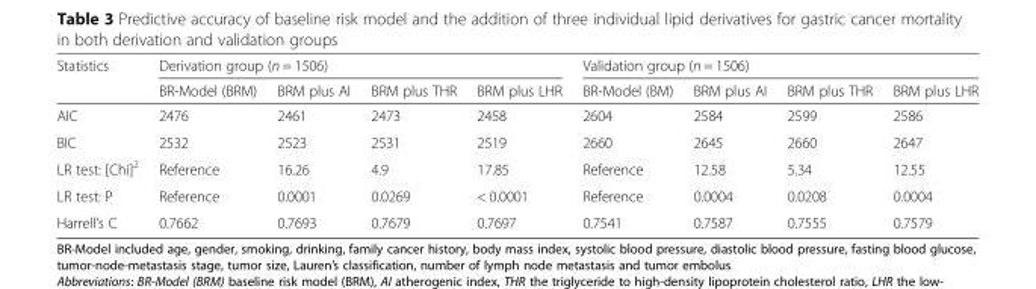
<table><thead><tr><td rowspan="2">Statistics</td><td colspan="4">Derivation group (n = 1506)</td><td colspan="4">Validation group (n = 1506)</td></tr><tr><td>BR-Model (BRM)</td><td>BRM plus AI</td><td>BRM plus THR</td><td>BRM plus LHR</td><td>BR-Model (BM)</td><td>BRM plus AI</td><td>BRM plus THR</td><td>BRM plus LHR</td></tr></thead><tbody><tr><td>AIC</td><td>2476</td><td>2461</td><td>2473</td><td>2458</td><td>2604</td><td>2584</td><td>2599</td><td>2586</td></tr><tr><td>BIC</td><td>2532</td><td>2523</td><td>2531</td><td>2519</td><td>2660</td><td>2645</td><td>2660</td><td>2647</td></tr><tr><td>LR test: [Chi]<sup>2</sup></td><td>Reference</td><td>16.26</td><td>4.9</td><td>17.85</td><td>Reference</td><td>12.58</td><td>5.34</td><td>12.55</td></tr><tr><td>LR test: P</td><td>Reference</td><td>0.0001</td><td>0.0269</td><td>&lt; 0.0001</td><td>Reference</td><td>0.0004</td><td>0.0208</td><td>0.0004</td></tr><tr><td>Harrell’s C</td><td>0.7662</td><td>0.7693</td><td>0.7679</td><td>0.7697</td><td>0.7541</td><td>0.7587</td><td>0.7555</td><td>0.7579</td></tr></tbody></table>